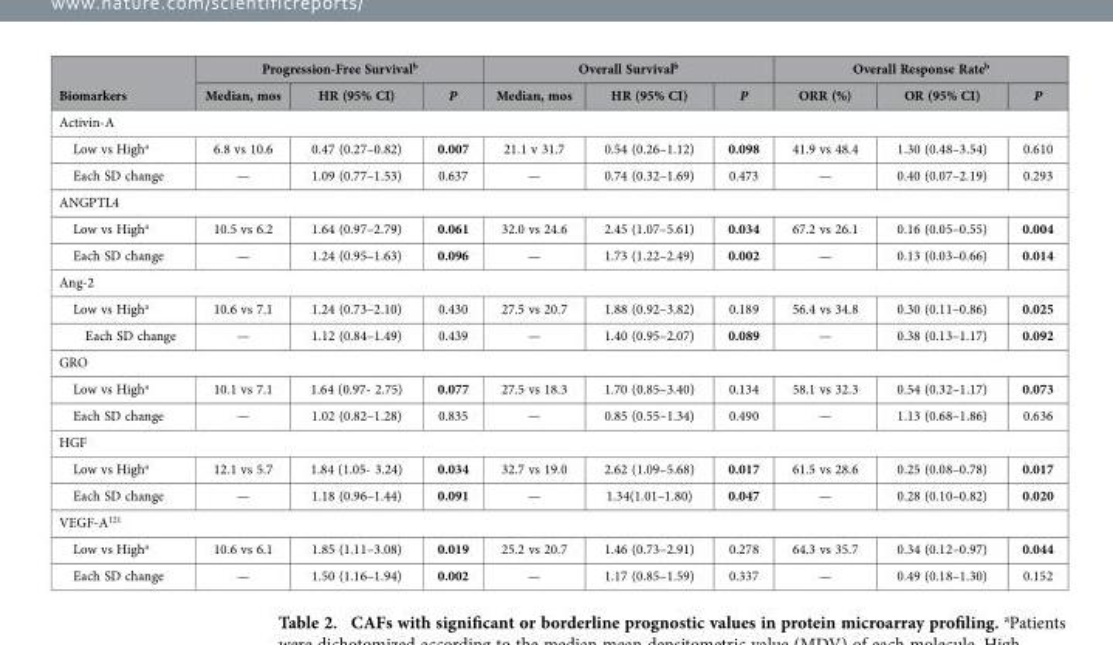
<table><thead><tr><td rowspan="2">Biomarkers</td><td colspan="3">Progression-Free Survival<sup>b</sup></td><td colspan="3">Overall Survival<sup>b</sup></td><td colspan="3">Overall Response Rate<sup>b</sup></td></tr><tr><td>Median, mos</td><td>HR (95% CI)</td><td>P</td><td>Median, mos</td><td>HR (95% CI)</td><td>P</td><td>ORR (%)</td><td>OR (95% CI)</td><td>P</td></tr></thead><tbody><tr><td colspan="10">Activin-A</td></tr><tr><td>Low vs High<sup>a</sup></td><td>6.8 vs 10.6</td><td>0.47 (0.27–0.82)</td><td>0.007</td><td>21.1 v 31.7</td><td>0.54 (0.26–1.12)</td><td>0.098</td><td>41.9 vs 48.4</td><td>1.30 (0.48–3.54)</td><td>0.610</td></tr><tr><td>Each SD change</td><td>—</td><td>1.09 (0.77–1.53)</td><td>0.637</td><td>—</td><td>0.74 (0.32–1.69)</td><td>0.473</td><td>—</td><td>0.40 (0.07–2.19)</td><td>0.293</td></tr><tr><td colspan="10">ANGPTL4</td></tr><tr><td>Low vs High<sup>a</sup></td><td>10.5 vs 6.2</td><td>1.64 (0.97–2.79)</td><td>0.061</td><td>32.0 vs 24.6</td><td>2.45 (1.07–5.61)</td><td>0.034</td><td>67.2 vs 26.1</td><td>0.16 (0.05–0.55)</td><td>0.004</td></tr><tr><td>Each SD change</td><td>—</td><td>1.24 (0.95–1.63)</td><td>0.096</td><td>—</td><td>1.73 (1.22–2.49)</td><td>0.002</td><td>—</td><td>0.13 (0.03–0.66)</td><td>0.014</td></tr><tr><td colspan="10">Ang-2</td></tr><tr><td>Low vs High<sup>a</sup></td><td>10.6 vs 7.1</td><td>1.24 (0.73–2.10)</td><td>0.430</td><td>27.5 vs 20.7</td><td>1.88 (0.92–3.82)</td><td>0.189</td><td>56.4 vs 34.8</td><td>0.30 (0.11–0.86)</td><td>0.025</td></tr><tr><td>Each SD change</td><td>—</td><td>1.12 (0.84–1.49)</td><td>0.439</td><td>—</td><td>1.40 (0.95–2.07)</td><td>0.089</td><td>—</td><td>0.38 (0.13–1.17)</td><td>0.092</td></tr><tr><td colspan="10">GRO</td></tr><tr><td>Low vs High<sup>a</sup></td><td>10.1 vs 7.1</td><td>1.64 (0.97- 2.75)</td><td>0.077</td><td>27.5 vs 18.3</td><td>1.70 (0.85–3.40)</td><td>0.134</td><td>58.1 vs 32.3</td><td>0.54 (0.32–1.17)</td><td>0.073</td></tr><tr><td>Each SD change</td><td>—</td><td>1.02 (0.82–1.28)</td><td>0.835</td><td>—</td><td>0.85 (0.55–1.34)</td><td>0.490</td><td>—</td><td>1.13 (0.68–1.86)</td><td>0.636</td></tr><tr><td colspan="10">HGF</td></tr><tr><td>Low vs High<sup>a</sup></td><td>12.1 vs 5.7</td><td>1.84 (1.05- 3.24)</td><td>0.034</td><td>32.7 vs 19.0</td><td>2.62 (1.09–5.68)</td><td>0.017</td><td>61.5 vs 28.6</td><td>0.25 (0.08–0.78)</td><td>0.017</td></tr><tr><td>Each SD change</td><td>—</td><td>1.18 (0.96–1.44)</td><td>0.091</td><td>—</td><td>1.34(1.01–1.80)</td><td>0.047</td><td>—</td><td>0.28 (0.10–0.82)</td><td>0.020</td></tr><tr><td colspan="10">VEGF-A<sup>121</sup></td></tr><tr><td>Low vs High<sup>a</sup></td><td>10.6 vs 6.1</td><td>1.85 (1.11–3.08)</td><td>0.019</td><td>25.2 vs 20.7</td><td>1.46 (0.73–2.91)</td><td>0.278</td><td>64.3 vs 35.7</td><td>0.34 (0.12–0.97)</td><td>0.044</td></tr><tr><td>Each SD change</td><td>—</td><td>1.50 (1.16–1.94)</td><td>0.002</td><td>—</td><td>1.17 (0.85–1.59)</td><td>0.337</td><td>—</td><td>0.49 (0.18–1.30)</td><td>0.152</td></tr></tbody></table>